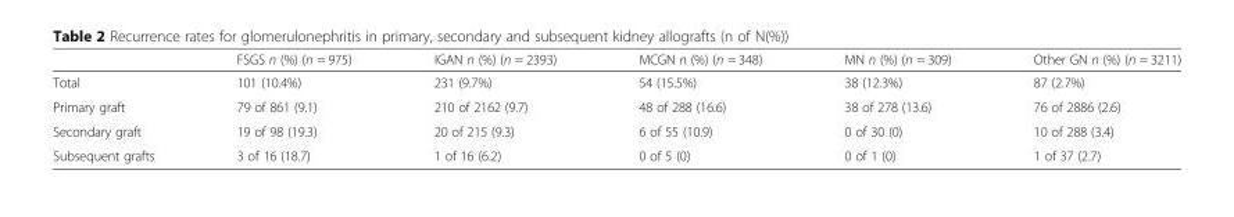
<table><thead><tr><td></td><td>FSGS n (%) (n = 975)</td><td>IGAN n (%) (n = 2393)</td><td>MCGN n (%) (n = 348)</td><td>MN n (%) (n = 309)</td><td>Other GN n (%) (n = 3211)</td></tr></thead><tbody><tr><td>Total</td><td>101 (10.4%)</td><td>231 (9.7%)</td><td>54 (15.5%)</td><td>38 (12.3%)</td><td>87 (2.7%)</td></tr><tr><td>Primary graft</td><td>79 of 861 (9.1)</td><td>210 of 2162 (9.7)</td><td>48 of 288 (16.6)</td><td>38 of 278 (13.6)</td><td>76 of 2886 (2.6)</td></tr><tr><td>Secondary graft</td><td>19 of 98 (19.3)</td><td>20 of 215 (9.3)</td><td>6 of 55 (10.9)</td><td>0 of 30 (0)</td><td>10 of 288 (3.4)</td></tr><tr><td>Subsequent grafts</td><td>3 of 16 (18.7)</td><td>1 of 16 (6.2)</td><td>0 of 5 (0)</td><td>0 of 1 (0)</td><td>1 of 37 (2.7)</td></tr></tbody></table>